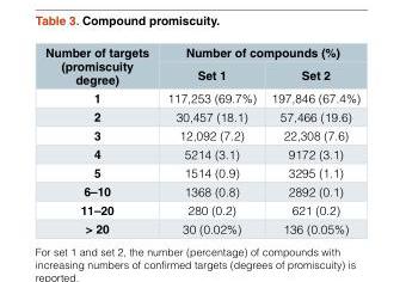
<table><thead><tr><td rowspan="2">Number of targets (promiscuity degree)</td><td colspan="2">Number of compounds (%)</td></tr><tr><td>Set 1</td><td>Set 2</td></tr></thead><tbody><tr><td>1</td><td>117,253 (69.7%)</td><td>197,846 (67.4%)</td></tr><tr><td>2</td><td>30,457 (18.1)</td><td>57,466 (19.6)</td></tr><tr><td>3</td><td>12,092 (7.2)</td><td>22,308 (7.6)</td></tr><tr><td>4</td><td>5214 (3.1)</td><td>9172 (3.1)</td></tr><tr><td>5</td><td>1514 (0.9)</td><td>3295 (1.1)</td></tr><tr><td>6–10</td><td>1368 (0.8)</td><td>2892 (0.1)</td></tr><tr><td>11–20</td><td>280 (0.2)</td><td>621 (0.2)</td></tr><tr><td>&gt; 20</td><td>30 (0.02%)</td><td>136 (0.05%)</td></tr></tbody></table>